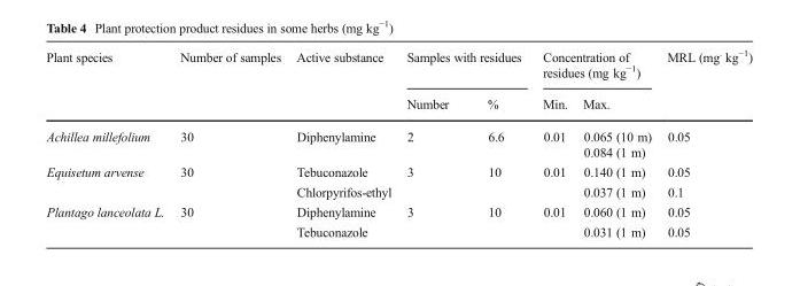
<table><thead><tr><td rowspan="2">Plant species</td><td rowspan="2">Number of samples</td><td rowspan="2">Active substance</td><td colspan="2">Samples with residues</td><td colspan="2">Concentration of residues (mg kg<sup>−1</sup>)</td><td rowspan="2">MRL (mg<sup>.</sup> kg<sup>−1</sup>)</td></tr><tr><td>Number</td><td>%</td><td>Min.</td><td>Max.</td></tr></thead><tbody><tr><td rowspan="2">Achillea millefolium</td><td rowspan="2">30</td><td rowspan="2">Diphenylamine</td><td rowspan="2">2</td><td rowspan="2">6.6</td><td rowspan="2">0.01</td><td>0.065 (10 m)</td><td rowspan="2">0.05</td></tr><tr><td>0.084 (1 m)</td></tr><tr><td rowspan="2">Equisetum arvense</td><td rowspan="2">30</td><td>Tebuconazole</td><td rowspan="2">3</td><td rowspan="2">10</td><td rowspan="2">0.01</td><td>0.140 (1 m)</td><td>0.05</td></tr><tr><td>Chlorpyrifos-ethyl</td><td>0.037 (1 m)</td><td>0.1</td></tr><tr><td rowspan="2">Plantago lanceolata L.</td><td rowspan="2">30</td><td>Diphenylamine</td><td rowspan="2">3</td><td rowspan="2">10</td><td rowspan="2">0.01</td><td>0.060 (1 m)</td><td>0.05</td></tr><tr><td>Tebuconazole</td><td>0.031 (1 m)</td><td>0.05</td></tr></tbody></table>